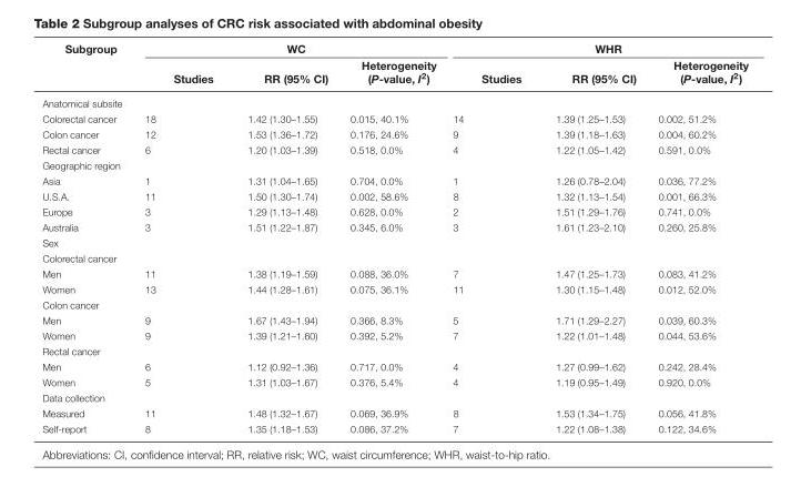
<table><thead><tr><td rowspan="2">Subgroup</td><td colspan="3">WC</td><td colspan="3">WHR</td></tr><tr><td>Studies</td><td>RR (95% CI)</td><td>Heterogeneity (P-value, I<sup>2</sup>)</td><td>Studies</td><td>RR (95% CI)</td><td>Heterogeneity (P-value, I<sup>2</sup>)</td></tr></thead><tbody><tr><td colspan="7">Anatomical subsite</td></tr><tr><td>Colorectal cancer</td><td>18</td><td>1.42 (1.30–1.55)</td><td>0.015, 40.1%</td><td>14</td><td>1.39 (1.25–1.53)</td><td>0.002, 51.2%</td></tr><tr><td>Colon cancer</td><td>12</td><td>1.53 (1.36–1.72)</td><td>0.176, 24.6%</td><td>9</td><td>1.39 (1.18–1.63)</td><td>0.004, 60.2%</td></tr><tr><td>Rectal cancer</td><td>6</td><td>1.20 (1.03–1.39)</td><td>0.518, 0.0%</td><td>4</td><td>1.22 (1.05–1.42)</td><td>0.591, 0.0%</td></tr><tr><td colspan="7">Geographic region</td></tr><tr><td>Asia</td><td>1</td><td>1.31 (1.04–1.65)</td><td>0.704, 0.0%</td><td>1</td><td>1.26 (0.78–2.04)</td><td>0.036, 77.2%</td></tr><tr><td>U.S.A.</td><td>11</td><td>1.50 (1.30–1.74)</td><td>0.002, 58.6%</td><td>8</td><td>1.32 (1.13–1.54)</td><td>0.001, 66.3%</td></tr><tr><td>Europe</td><td>3</td><td>1.29 (1.13–1.48)</td><td>0.628, 0.0%</td><td>2</td><td>1.51 (1.29–1.76)</td><td>0.741, 0.0%</td></tr><tr><td>Australia</td><td>3</td><td>1.51 (1.22–1.87)</td><td>0.345, 6.0%</td><td>3</td><td>1.61 (1.23–2.10)</td><td>0.260, 25.8%</td></tr><tr><td colspan="7">Sex</td></tr><tr><td colspan="7">Colorectal cancer</td></tr><tr><td>Men</td><td>11</td><td>1.38 (1.19–1.59)</td><td>0.088, 36.0%</td><td>7</td><td>1.47 (1.25–1.73)</td><td>0.083, 41.2%</td></tr><tr><td>Women</td><td>13</td><td>1.44 (1.28–1.61)</td><td>0.075, 36.1%</td><td>11</td><td>1.30 (1.15–1.48)</td><td>0.012, 52.0%</td></tr><tr><td colspan="7">Colon cancer</td></tr><tr><td>Men</td><td>9</td><td>1.67 (1.43–1.94)</td><td>0.366, 8.3%</td><td>5</td><td>1.71 (1.29–2.27)</td><td>0.039, 60.3%</td></tr><tr><td>Women</td><td>9</td><td>1.39 (1.21–1.60)</td><td>0.392, 5.2%</td><td>7</td><td>1.22 (1.01–1.48)</td><td>0.044, 53.6%</td></tr><tr><td colspan="7">Rectal cancer</td></tr><tr><td>Men</td><td>6</td><td>1.12 (0.92–1.36)</td><td>0.717, 0.0%</td><td>4</td><td>1.27 (0.99–1.62)</td><td>0.242, 28.4%</td></tr><tr><td>Women</td><td>5</td><td>1.31 (1.03–1.67)</td><td>0.376, 5.4%</td><td>4</td><td>1.19 (0.95–1.49)</td><td>0.920, 0.0%</td></tr><tr><td colspan="7">Data collection</td></tr><tr><td>Measured</td><td>11</td><td>1.48 (1.32–1.67)</td><td>0.069, 36.9%</td><td>8</td><td>1.53 (1.34–1.75)</td><td>0.056, 41.8%</td></tr><tr><td>Self-report</td><td>8</td><td>1.35 (1.18–1.53)</td><td>0.086, 37.2%</td><td>7</td><td>1.22 (1.08–1.38)</td><td>0.122, 34.6%</td></tr></tbody></table>